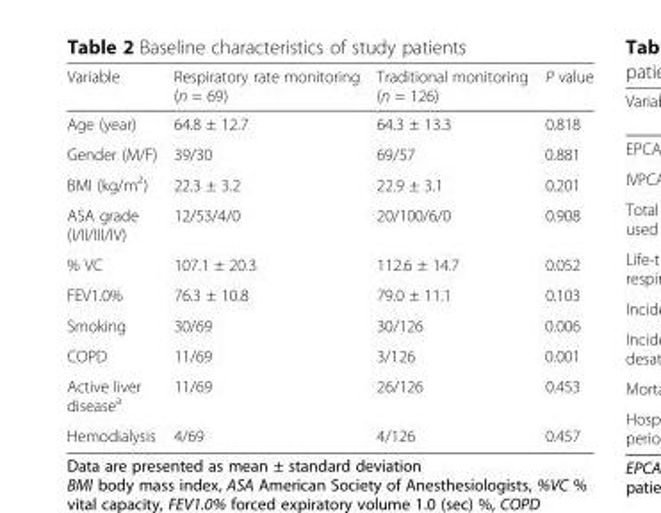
<table><thead><tr><td>Variable</td><td>Respiratory rate monitoring (n = 69)</td><td>Traditional monitoring (n = 126)</td><td>P value</td></tr></thead><tbody><tr><td>Age (year)</td><td>64.8 ± 12.7</td><td>64.3 ± 13.3</td><td>0.818</td></tr><tr><td>Gender (M/F)</td><td>39/30</td><td>69/57</td><td>0.881</td></tr><tr><td>BMI (kg/m<sup>2</sup>)</td><td>22.3 ± 3.2</td><td>22.9 ± 3.1</td><td>0.201</td></tr><tr><td>ASA grade (I/II/III/IV)</td><td>12/53/4/0</td><td>20/100/6/0</td><td>0.908</td></tr><tr><td>% VC</td><td>107.1 ± 20.3</td><td>112.6 ± 14.7</td><td>0.052</td></tr><tr><td>FEV1.0%</td><td>76.3 ± 10.8</td><td>79.0 ± 11.1</td><td>0.103</td></tr><tr><td>Smoking</td><td>30/69</td><td>30/126</td><td>0.006</td></tr><tr><td>COPD</td><td>11/69</td><td>3/126</td><td>0.001</td></tr><tr><td>Active liver disease<sup>a</sup></td><td>11/69</td><td>26/126</td><td>0.453</td></tr><tr><td>Hemodialysis</td><td>4/69</td><td>4/126</td><td>0.457</td></tr></tbody></table>